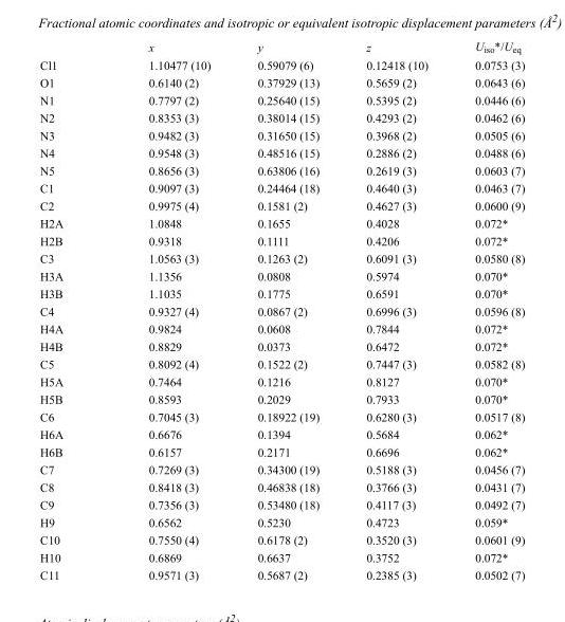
<table><thead><tr><td></td><td>x</td><td>y</td><td>z</td><td>U<sub>iso</sub>*/U<sub>eq</sub></td></tr></thead><tbody><tr><td>Cl1</td><td>1.10477 (10)</td><td>0.59079 (6)</td><td>0.12418 (10)</td><td>0.0753 (3)</td></tr><tr><td>O1</td><td>0.6140 (2)</td><td>0.37929 (13)</td><td>0.5659 (2)</td><td>0.0643 (6)</td></tr><tr><td>N1</td><td>0.7797 (2)</td><td>0.25640 (15)</td><td>0.5395 (2)</td><td>0.0446 (6)</td></tr><tr><td>N2</td><td>0.8353 (3)</td><td>0.38014 (15)</td><td>0.4293 (2)</td><td>0.0462 (6)</td></tr><tr><td>N3</td><td>0.9482 (3)</td><td>0.31650 (15)</td><td>0.3968 (2)</td><td>0.0505 (6)</td></tr><tr><td>N4</td><td>0.9548 (3)</td><td>0.48516 (15)</td><td>0.2886 (2)</td><td>0.0488 (6)</td></tr><tr><td>N5</td><td>0.8656 (3)</td><td>0.63806 (16)</td><td>0.2619 (3)</td><td>0.0603 (7)</td></tr><tr><td>C1</td><td>0.9097 (3)</td><td>0.24464 (18)</td><td>0.4640 (3)</td><td>0.0463 (7)</td></tr><tr><td>C2</td><td>0.9975 (4)</td><td>0.1581 (2)</td><td>0.4627 (3)</td><td>0.0600 (9)</td></tr><tr><td>H2A</td><td>1.0848</td><td>0.1655</td><td>0.4028</td><td>0.072*</td></tr><tr><td>H2B</td><td>0.9318</td><td>0.1111</td><td>0.4206</td><td>0.072*</td></tr><tr><td>C3</td><td>1.0563 (3)</td><td>0.1263 (2)</td><td>0.6091 (3)</td><td>0.0580 (8)</td></tr><tr><td>H3A</td><td>1.1356</td><td>0.0808</td><td>0.5974</td><td>0.070*</td></tr><tr><td>H3B</td><td>1.1035</td><td>0.1775</td><td>0.6591</td><td>0.070*</td></tr><tr><td>C4</td><td>0.9327 (4)</td><td>0.0867 (2)</td><td>0.6996 (3)</td><td>0.0596 (8)</td></tr><tr><td>H4A</td><td>0.9824</td><td>0.0608</td><td>0.7844</td><td>0.072*</td></tr><tr><td>H4B</td><td>0.8829</td><td>0.0373</td><td>0.6472</td><td>0.072*</td></tr><tr><td>C5</td><td>0.8092 (4)</td><td>0.1522 (2)</td><td>0.7447 (3)</td><td>0.0582 (8)</td></tr><tr><td>H5A</td><td>0.7464</td><td>0.1216</td><td>0.8127</td><td>0.070*</td></tr><tr><td>H5B</td><td>0.8593</td><td>0.2029</td><td>0.7933</td><td>0.070*</td></tr><tr><td>C6</td><td>0.7045 (3)</td><td>0.18922 (19)</td><td>0.6280 (3)</td><td>0.0517 (8)</td></tr><tr><td>H6A</td><td>0.6676</td><td>0.1394</td><td>0.5684</td><td>0.062*</td></tr><tr><td>H6B</td><td>0.6157</td><td>0.2171</td><td>0.6696</td><td>0.062*</td></tr><tr><td>C7</td><td>0.7269 (3)</td><td>0.34300 (19)</td><td>0.5188 (3)</td><td>0.0456 (7)</td></tr><tr><td>C8</td><td>0.8418 (3)</td><td>0.46838 (18)</td><td>0.3766 (3)</td><td>0.0431 (7)</td></tr><tr><td>C9</td><td>0.7356 (3)</td><td>0.53480 (18)</td><td>0.4117 (3)</td><td>0.0492 (7)</td></tr><tr><td>H9</td><td>0.6562</td><td>0.5230</td><td>0.4723</td><td>0.059*</td></tr><tr><td>C10</td><td>0.7550 (4)</td><td>0.6178 (2)</td><td>0.3520 (3)</td><td>0.0601 (9)</td></tr><tr><td>H10</td><td>0.6869</td><td>0.6637</td><td>0.3752</td><td>0.072*</td></tr><tr><td>C11</td><td>0.9571 (3)</td><td>0.5687 (2)</td><td>0.2385 (3)</td><td>0.0502 (7)</td></tr></tbody></table>